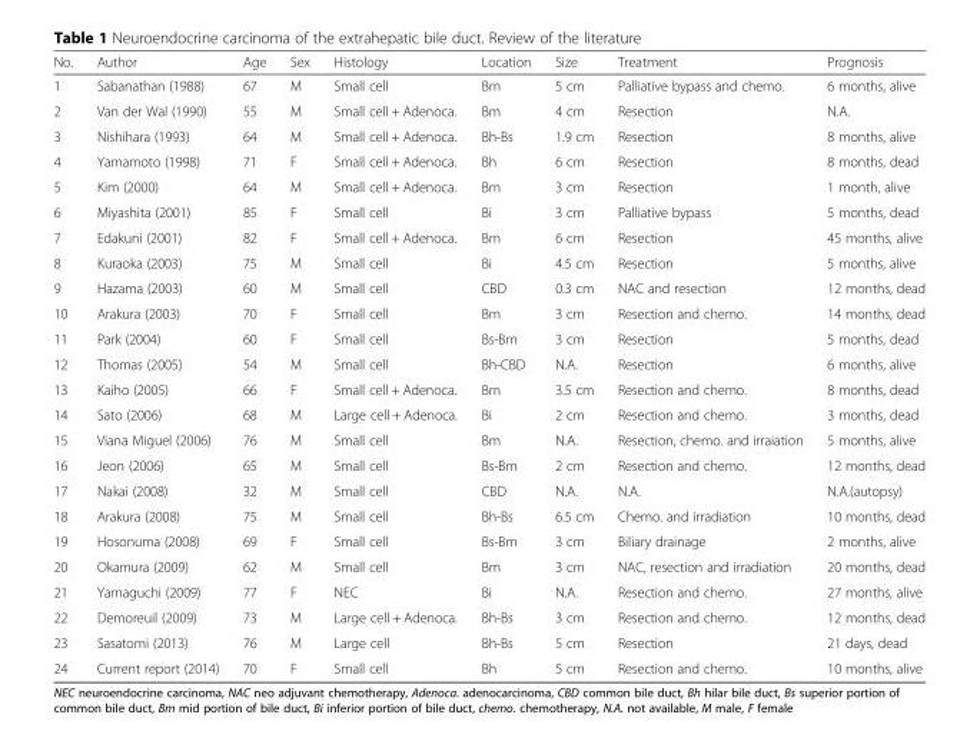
<table><thead><tr><td>No.</td><td>Author</td><td>Age</td><td>Sex</td><td>Histology</td><td>Location</td><td>Size</td><td>Treatment</td><td>Prognosis</td></tr></thead><tbody><tr><td>1</td><td>Sabanathan (1988)</td><td>67</td><td>M</td><td>Small cell</td><td>Bm</td><td>5 cm</td><td>Palliative bypass and chemo.</td><td>6 months, alive</td></tr><tr><td>2</td><td>Van der Wal (1990)</td><td>55</td><td>M</td><td>Small cell + Adenoca.</td><td>Bm</td><td>4 cm</td><td>Resection</td><td>N.A.</td></tr><tr><td>3</td><td>Nishihara (1993)</td><td>64</td><td>M</td><td>Small cell + Adenoca.</td><td>Bh-Bs</td><td>1.9 cm</td><td>Resection</td><td>8 months, alive</td></tr><tr><td>4</td><td>Yamamoto (1998)</td><td>71</td><td>F</td><td>Small cell + Adenoca.</td><td>Bh</td><td>6 cm</td><td>Resection</td><td>8 months, dead</td></tr><tr><td>5</td><td>Kim (2000)</td><td>64</td><td>M</td><td>Small cell + Adenoca.</td><td>Bm</td><td>3 cm</td><td>Resection</td><td>1 month, alive</td></tr><tr><td>6</td><td>Miyashita (2001)</td><td>85</td><td>F</td><td>Small cell</td><td>Bi</td><td>3 cm</td><td>Palliative bypass</td><td>5 months, dead</td></tr><tr><td>7</td><td>Edakuni (2001)</td><td>82</td><td>F</td><td>Small cell + Adenoca.</td><td>Bm</td><td>6 cm</td><td>Resection</td><td>45 months, alive</td></tr><tr><td>8</td><td>Kuraoka (2003)</td><td>75</td><td>M</td><td>Small cell</td><td>Bi</td><td>4.5 cm</td><td>Resection</td><td>5 months, alive</td></tr><tr><td>9</td><td>Hazama (2003)</td><td>60</td><td>M</td><td>Small cell</td><td>CBD</td><td>0.3 cm</td><td>NAC and resection</td><td>12 months, dead</td></tr><tr><td>10</td><td>Arakura (2003)</td><td>70</td><td>F</td><td>Small cell</td><td>Bm</td><td>3 cm</td><td>Resection and chemo.</td><td>14 months, dead</td></tr><tr><td>11</td><td>Park (2004)</td><td>60</td><td>F</td><td>Small cell</td><td>Bs-Bm</td><td>3 cm</td><td>Resection</td><td>5 months, dead</td></tr><tr><td>12</td><td>Thomas (2005)</td><td>54</td><td>M</td><td>Small cell</td><td>Bh-CBD</td><td>N.A.</td><td>Resection</td><td>6 months, alive</td></tr><tr><td>13</td><td>Kaiho (2005)</td><td>66</td><td>F</td><td>Small cell + Adenoca.</td><td>Bm</td><td>3.5 cm</td><td>Resection and chemo.</td><td>8 months, dead</td></tr><tr><td>14</td><td>Sato (2006)</td><td>68</td><td>M</td><td>Large cell + Adenoca.</td><td>Bi</td><td>2 cm</td><td>Resection and chemo.</td><td>3 months, dead</td></tr><tr><td>15</td><td>Viana Miguel (2006)</td><td>76</td><td>M</td><td>Small cell</td><td>Bm</td><td>N.A.</td><td>Resection, chemo. and irraiation</td><td>5 months, alive</td></tr><tr><td>16</td><td>Jeon (2006)</td><td>65</td><td>M</td><td>Small cell</td><td>Bs-Bm</td><td>2 cm</td><td>Resection and chemo.</td><td>12 months, dead</td></tr><tr><td>17</td><td>Nakai (2008)</td><td>32</td><td>M</td><td>Small cell</td><td>CBD</td><td>N.A.</td><td>N.A.</td><td>N.A.(autopsy)</td></tr><tr><td>18</td><td>Arakura (2008)</td><td>75</td><td>M</td><td>Small cell</td><td>Bh-Bs</td><td>6.5 cm</td><td>Chemo. and irradiation</td><td>10 months, dead</td></tr><tr><td>19</td><td>Hosonuma (2008)</td><td>69</td><td>F</td><td>Small cell</td><td>Bs-Bm</td><td>3 cm</td><td>Biliary drainage</td><td>2 months, alive</td></tr><tr><td>20</td><td>Okamura (2009)</td><td>62</td><td>M</td><td>Small cell</td><td>Bm</td><td>3 cm</td><td>NAC, resection and irradiation</td><td>20 months, dead</td></tr><tr><td>21</td><td>Yamaguchi (2009)</td><td>77</td><td>F</td><td>NEC</td><td>Bi</td><td>N.A.</td><td>Resection and chemo.</td><td>27 months, alive</td></tr><tr><td>22</td><td>Demoreuil (2009)</td><td>73</td><td>M</td><td>Large cell + Adenoca.</td><td>Bh-Bs</td><td>3 cm</td><td>Resection and chemo.</td><td>12 months, dead</td></tr><tr><td>23</td><td>Sasatomi (2013)</td><td>76</td><td>M</td><td>Large cell</td><td>Bh-Bs</td><td>5 cm</td><td>Resection</td><td>21 days, dead</td></tr><tr><td>24</td><td>Current report (2014)</td><td>70</td><td>F</td><td>Small cell</td><td>Bh</td><td>5 cm</td><td>Resection and chemo.</td><td>10 months, alive</td></tr></tbody></table>